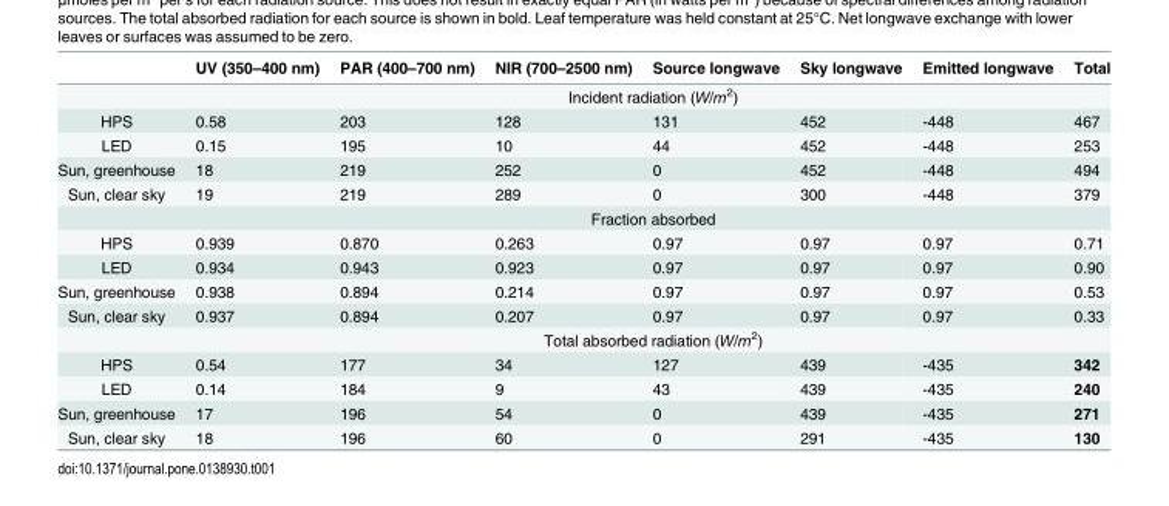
<table><thead><tr><td></td><td>UV (350–400 nm)</td><td>PAR (400–700 nm)</td><td>NIR (700–2500 nm)</td><td>Source longwave</td><td>Sky longwave</td><td>Emitted longwave</td><td>Total</td></tr></thead><tbody><tr><td></td><td colspan="7">Incident radiation (W/m<sup>2</sup>)</td></tr><tr><td>HPS</td><td>0.58</td><td>203</td><td>128</td><td>131</td><td>452</td><td>-448</td><td>467</td></tr><tr><td>LED</td><td>0.15</td><td>195</td><td>10</td><td>44</td><td>452</td><td>-448</td><td>253</td></tr><tr><td>Sun, greenhouse</td><td>18</td><td>219</td><td>252</td><td>0</td><td>452</td><td>-448</td><td>494</td></tr><tr><td rowspan="2">Sun, clear sky</td><td>19</td><td>219</td><td>289</td><td>0</td><td>300</td><td>-448</td><td>379</td></tr><tr><td colspan="7">Fraction absorbed</td></tr><tr><td>HPS</td><td>0.939</td><td>0.870</td><td>0.263</td><td>0.97</td><td>0.97</td><td>0.97</td><td>0.71</td></tr><tr><td>LED</td><td>0.934</td><td>0.943</td><td>0.923</td><td>0.97</td><td>0.97</td><td>0.97</td><td>0.90</td></tr><tr><td>Sun, greenhouse</td><td>0.938</td><td>0.894</td><td>0.214</td><td>0.97</td><td>0.97</td><td>0.97</td><td>0.53</td></tr><tr><td rowspan="2">Sun, clear sky</td><td>0.937</td><td>0.894</td><td>0.207</td><td>0.97</td><td>0.97</td><td>0.97</td><td>0.33</td></tr><tr><td colspan="7">Total absorbed radiation (W/m<sup>2</sup>)</td></tr><tr><td>HPS</td><td>0.54</td><td>177</td><td>34</td><td>127</td><td>439</td><td>-435</td><td>342</td></tr><tr><td>LED</td><td>0.14</td><td>184</td><td>9</td><td>43</td><td>439</td><td>-435</td><td>240</td></tr><tr><td>Sun, greenhouse</td><td>17</td><td>196</td><td>54</td><td>0</td><td>439</td><td>-435</td><td>271</td></tr><tr><td>Sun, clear sky</td><td>18</td><td>196</td><td>60</td><td>0</td><td>291</td><td>-435</td><td>130</td></tr></tbody></table>